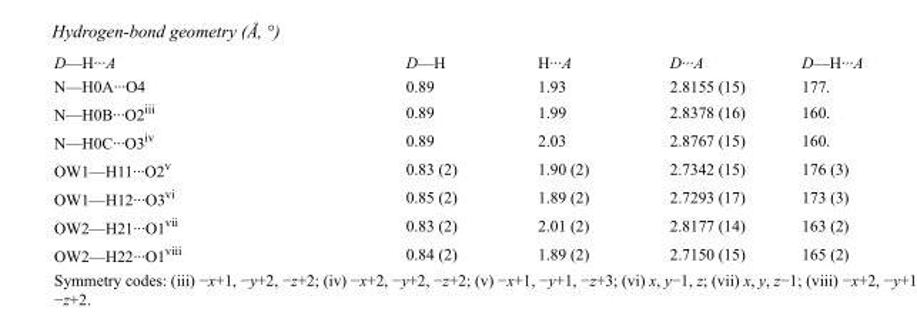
<table><tbody><tr><td>D—H···A</td><td>D—H</td><td>H···A</td><td>D···A</td><td>D—H···A</td></tr><tr><td>N—H0A···O4</td><td>0.89</td><td>1.93</td><td>2.8155 (15)</td><td>177.</td></tr><tr><td>N—H0B···O2<sup>iii</sup></td><td>0.89</td><td>1.99</td><td>2.8378 (16)</td><td>160.</td></tr><tr><td>N—H0C···O3<sup>iv</sup></td><td>0.89</td><td>2.03</td><td>2.8767 (15)</td><td>160.</td></tr><tr><td>OW1—H11···O2<sup>v</sup></td><td>0.83 (2)</td><td>1.90 (2)</td><td>2.7342 (15)</td><td>176 (3)</td></tr><tr><td>OW1—H12···O3<sup>vi</sup></td><td>0.85 (2)</td><td>1.89 (2)</td><td>2.7293 (17)</td><td>173 (3)</td></tr><tr><td>OW2—H21···O1<sup>vii</sup></td><td>0.83 (2)</td><td>2.01 (2)</td><td>2.8177 (14)</td><td>163 (2)</td></tr><tr><td>OW2—H22···O1<sup>viii</sup></td><td>0.84 (2)</td><td>1.89 (2)</td><td>2.7150 (15)</td><td>165 (2)</td></tr></tbody></table>